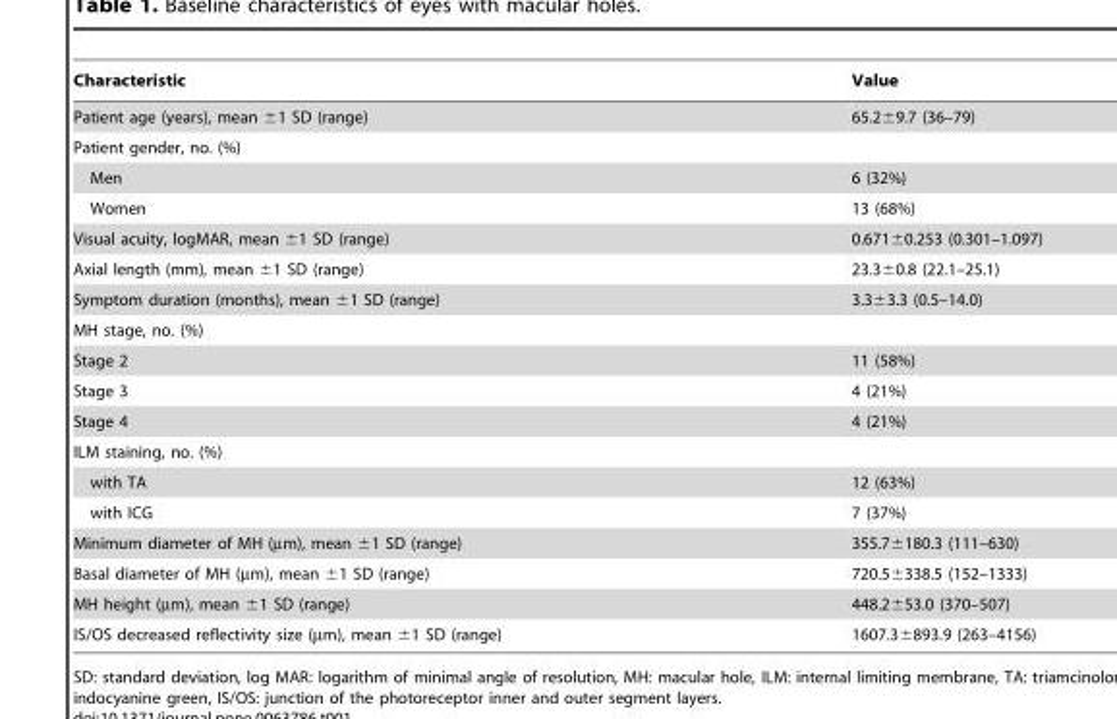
<table><thead><tr><td>Characteristic</td><td>Value</td></tr></thead><tbody><tr><td>Patient age (years), mean ±1 SD (range)</td><td>65.2±9.7 (36–79)</td></tr><tr><td colspan="2">Patient gender, no. (%)</td></tr><tr><td>Men</td><td>6 (32%)</td></tr><tr><td>Women</td><td>13 (68%)</td></tr><tr><td>Visual acuity, logMAR, mean ±1 SD (range)</td><td>0.671±0.253 (0.301–1.097)</td></tr><tr><td>Axial length (mm), mean ±1 SD (range)</td><td>23.3±0.8 (22.1–25.1)</td></tr><tr><td>Symptom duration (months), mean ±1 SD (range)</td><td>3.3±3.3 (0.5–14.0)</td></tr><tr><td colspan="2">MH stage, no. (%)</td></tr><tr><td>Stage 2</td><td>11 (58%)</td></tr><tr><td>Stage 3</td><td>4 (21%)</td></tr><tr><td>Stage 4</td><td>4 (21%)</td></tr><tr><td colspan="2">ILM staining, no. (%)</td></tr><tr><td>with TA</td><td>12 (63%)</td></tr><tr><td>with ICG</td><td>7 (37%)</td></tr><tr><td>Minimum diameter of MH (µm), mean ±1 SD (range)</td><td>355.7±180.3 (111–630)</td></tr><tr><td>Basal diameter of MH (µm), mean ±1 SD (range)</td><td>720.5±338.5 (152–1333)</td></tr><tr><td>MH height (µm), mean ±1 SD (range)</td><td>448.2±53.0 (370–507)</td></tr><tr><td>IS/OS decreased reflectivity size (µm), mean ±1 SD (range)</td><td>1607.3±893.9 (263–4156)</td></tr></tbody></table>